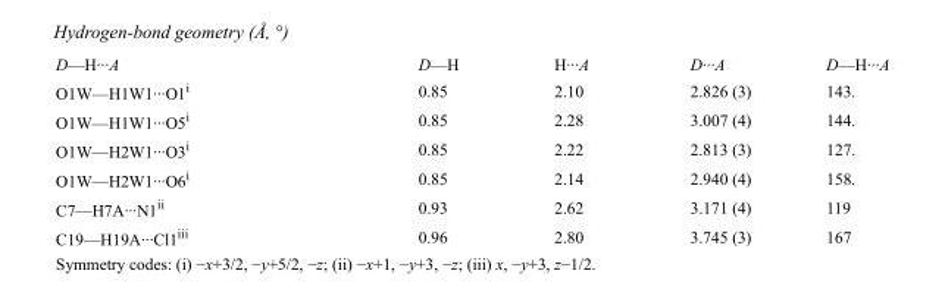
<table><tbody><tr><td>D—H···A</td><td>D—H</td><td>H···A</td><td>D···A</td><td>D—H···A</td></tr><tr><td>O1W—H1W1···O1<sup>i</sup></td><td>0.85</td><td>2.10</td><td>2.826 (3)</td><td>143.</td></tr><tr><td>O1W—H1W1···O5<sup>i</sup></td><td>0.85</td><td>2.28</td><td>3.007 (4)</td><td>144.</td></tr><tr><td>O1W—H2W1···O3<sup>i</sup></td><td>0.85</td><td>2.22</td><td>2.813 (3)</td><td>127.</td></tr><tr><td>O1W—H2W1···O6<sup>i</sup></td><td>0.85</td><td>2.14</td><td>2.940 (4)</td><td>158.</td></tr><tr><td>C7—H7A···N1<sup>ii</sup></td><td>0.93</td><td>2.62</td><td>3.171 (4)</td><td>119</td></tr><tr><td>C19—H19A···Cl1<sup>iii</sup></td><td>0.96</td><td>2.80</td><td>3.745 (3)</td><td>167</td></tr></tbody></table>